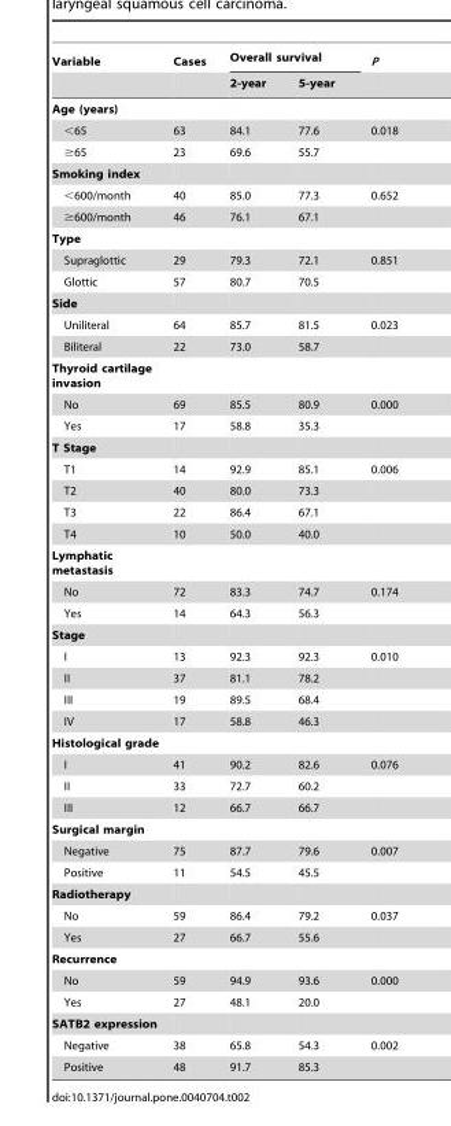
<table><thead><tr><td rowspan="2">Variable</td><td rowspan="2">Cases</td><td colspan="2">Overall survival</td><td rowspan="2">P</td></tr><tr><td>2-year</td><td>5-year</td></tr></thead><tbody><tr><td colspan="5">Age (years)</td></tr><tr><td>&lt;65</td><td>63</td><td>84.1</td><td>77.6</td><td>0.018</td></tr><tr><td>≥65</td><td>23</td><td>69.6</td><td>55.7</td><td></td></tr><tr><td colspan="5">Smoking index</td></tr><tr><td>&lt;600/month</td><td>40</td><td>85.0</td><td>77.3</td><td>0.652</td></tr><tr><td>≥600/month</td><td>46</td><td>76.1</td><td>67.1</td><td></td></tr><tr><td colspan="5">Type</td></tr><tr><td>Supraglottic</td><td>29</td><td>79.3</td><td>72.1</td><td>0.851</td></tr><tr><td>Glottic</td><td>57</td><td>80.7</td><td>70.5</td><td></td></tr><tr><td colspan="5">Side</td></tr><tr><td>Uniliteral</td><td>64</td><td>85.7</td><td>81.5</td><td>0.023</td></tr><tr><td>Biliteral</td><td>22</td><td>73.0</td><td>58.7</td><td></td></tr><tr><td colspan="5">Thyroid cartilage invasion</td></tr><tr><td>No</td><td>69</td><td>85.5</td><td>80.9</td><td>0.000</td></tr><tr><td>Yes</td><td>17</td><td>58.8</td><td>35.3</td><td></td></tr><tr><td colspan="5">T Stage</td></tr><tr><td>T1</td><td>14</td><td>92.9</td><td>85.1</td><td>0.006</td></tr><tr><td>T2</td><td>40</td><td>80.0</td><td>73.3</td><td></td></tr><tr><td>T3</td><td>22</td><td>86.4</td><td>67.1</td><td></td></tr><tr><td>T4</td><td>10</td><td>50.0</td><td>40.0</td><td></td></tr><tr><td colspan="5">Lymphatic metastasis</td></tr><tr><td>No</td><td>72</td><td>83.3</td><td>74.7</td><td>0.174</td></tr><tr><td>Yes</td><td>14</td><td>64.3</td><td>56.3</td><td></td></tr><tr><td colspan="5">Stage</td></tr><tr><td>I</td><td>13</td><td>92.3</td><td>92.3</td><td>0.010</td></tr><tr><td>II</td><td>37</td><td>81.1</td><td>78.2</td><td></td></tr><tr><td>III</td><td>19</td><td>89.5</td><td>68.4</td><td></td></tr><tr><td>IV</td><td>17</td><td>58.8</td><td>46.3</td><td></td></tr><tr><td colspan="5">Histological grade</td></tr><tr><td>I</td><td>41</td><td>90.2</td><td>82.6</td><td>0.076</td></tr><tr><td>II</td><td>33</td><td>72.7</td><td>60.2</td><td></td></tr><tr><td>III</td><td>12</td><td>66.7</td><td>66.7</td><td></td></tr><tr><td colspan="5">Surgical margin</td></tr><tr><td>Negative</td><td>75</td><td>87.7</td><td>79.6</td><td>0.007</td></tr><tr><td>Positive</td><td>11</td><td>54.5</td><td>45.5</td><td></td></tr><tr><td colspan="5">Radiotherapy</td></tr><tr><td>No</td><td>59</td><td>86.4</td><td>79.2</td><td>0.037</td></tr><tr><td>Yes</td><td>27</td><td>66.7</td><td>55.6</td><td></td></tr><tr><td colspan="5">Recurrence</td></tr><tr><td>No</td><td>59</td><td>94.9</td><td>93.6</td><td>0.000</td></tr><tr><td>Yes</td><td>27</td><td>48.1</td><td>20.0</td><td></td></tr><tr><td colspan="5">SATB2 expression</td></tr><tr><td>Negative</td><td>38</td><td>65.8</td><td>54.3</td><td>0.002</td></tr><tr><td>Positive</td><td>48</td><td>91.7</td><td>85.3</td><td></td></tr></tbody></table>